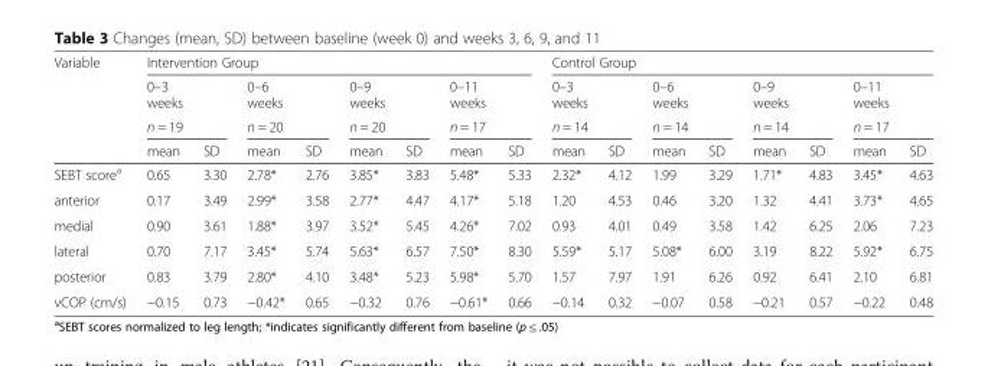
<table><thead><tr><td rowspan="4">Variable</td><td colspan="8">Intervention Group</td><td colspan="8">Control Group</td></tr><tr><td colspan="2">0–3 weeks</td><td rowspan="3">0–6 weeks n = 20 mean</td><td rowspan="3">SD</td><td rowspan="3">0–9 weeks n = 20 mean</td><td rowspan="3">SD</td><td rowspan="3">0–11 weeks n = 17 mean</td><td rowspan="3">SD</td><td rowspan="3">0–3 weeks n = 14 mean</td><td rowspan="3">SD</td><td rowspan="3">0–6 weeks n = 14 mean</td><td rowspan="3">SD</td><td rowspan="3">0–9 weeks n = 14 mean</td><td rowspan="3">SD</td><td rowspan="3">0–11 weeks n = 17 mean</td><td rowspan="3">SD</td></tr><tr><td rowspan="2">n = 19 mean</td><td rowspan="2">SD</td></tr><tr></tr></thead><tbody><tr><td>SEBT score<sup>a</sup></td><td>0.65</td><td>3.30</td><td>2.78*</td><td>2.76</td><td>3.85*</td><td>3.83</td><td>5.48*</td><td>5.33</td><td>2.32*</td><td>4.12</td><td>1.99</td><td>3.29</td><td>1.71*</td><td>4.83</td><td>3.45*</td><td>4.63</td></tr><tr><td>anterior</td><td>0.17</td><td>3.49</td><td>2.99*</td><td>3.58</td><td>2.77*</td><td>4.47</td><td>4.17*</td><td>5.18</td><td>1.20</td><td>4.53</td><td>0.46</td><td>3.20</td><td>1.32</td><td>4.41</td><td>3.73*</td><td>4.65</td></tr><tr><td>medial</td><td>0.90</td><td>3.61</td><td>1.88*</td><td>3.97</td><td>3.52*</td><td>5.45</td><td>4.26*</td><td>7.02</td><td>0.93</td><td>4.01</td><td>0.49</td><td>3.58</td><td>1.42</td><td>6.25</td><td>2.06</td><td>7.23</td></tr><tr><td>lateral</td><td>0.70</td><td>7.17</td><td>3.45*</td><td>5.74</td><td>5.63*</td><td>6.57</td><td>7.50*</td><td>8.30</td><td>5.59*</td><td>5.17</td><td>5.08*</td><td>6.00</td><td>3.19</td><td>8.22</td><td>5.92*</td><td>6.75</td></tr><tr><td>posterior</td><td>0.83</td><td>3.79</td><td>2.80*</td><td>4.10</td><td>3.48*</td><td>5.23</td><td>5.98*</td><td>5.70</td><td>1.57</td><td>7.97</td><td>1.91</td><td>6.26</td><td>0.92</td><td>6.41</td><td>2.10</td><td>6.81</td></tr><tr><td>vCOP (cm/s)</td><td>−0.15</td><td>0.73</td><td>−0.42*</td><td>0.65</td><td>−0.32</td><td>0.76</td><td>−0.61*</td><td>0.66</td><td>−0.14</td><td>0.32</td><td>−0.07</td><td>0.58</td><td>−0.21</td><td>0.57</td><td>−0.22</td><td>0.48</td></tr></tbody></table>